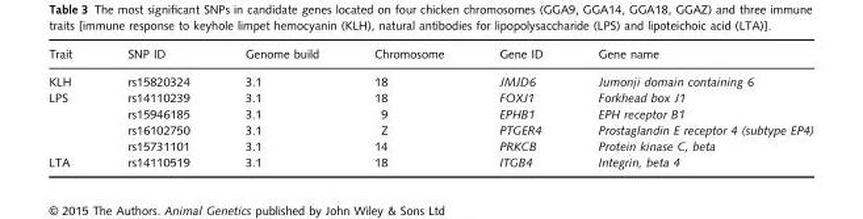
<table><thead><tr><td>Trait</td><td>SNP ID</td><td>Genome build</td><td>Chromosome</td><td>Gene ID</td><td>Gene name</td></tr></thead><tbody><tr><td>KLH</td><td>rs15820324</td><td>3.1</td><td>18</td><td>JMJD6</td><td>Jumonji domain containing 6</td></tr><tr><td rowspan="4">LPS</td><td>rs14110239</td><td>3.1</td><td>18</td><td>FOXJ1</td><td>Forkhead box J1</td></tr><tr><td>rs15946185</td><td>3.1</td><td>9</td><td>EPHB1</td><td>EPH receptor B1</td></tr><tr><td>rs16102750</td><td>3.1</td><td>Z</td><td>PTGER4</td><td>Prostaglandin E receptor 4 (subtype EP4)</td></tr><tr><td>rs15731101</td><td>3.1</td><td>14</td><td>PRKCB</td><td>Protein kinase C, beta</td></tr><tr><td>LTA</td><td>rs14110519</td><td>3.1</td><td>18</td><td>ITGB4</td><td>Integrin, beta 4</td></tr></tbody></table>